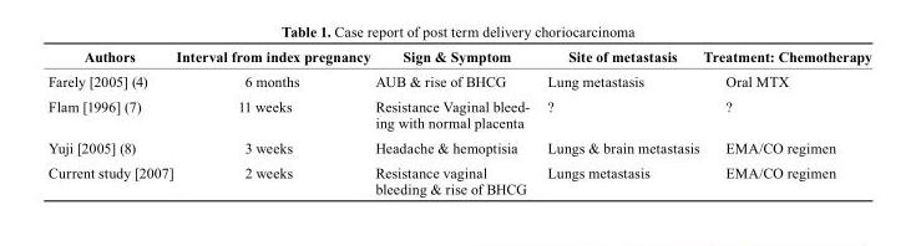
<table><thead><tr><td>Authors</td><td>Interval from index pregnancy</td><td>sign &amp; symptom</td><td>site of metastasis</td><td>treatment: chemotherapy</td></tr></thead><tbody><tr><td>Farely [2005] (4)</td><td>6 months</td><td>AUB &amp; rise of BHCG</td><td>Lung metastasis</td><td>Oral MTX</td></tr><tr><td>Flam [1996] (7)</td><td>11 weeks</td><td>Resistance Vaginal bleed- ing with normal placenta</td><td>?</td><td>?</td></tr><tr><td>Yuji [2005] (8)</td><td>3 weeks</td><td>Headache &amp; hemoptisia</td><td>Lungs &amp; brain metastasis</td><td>EMA/CO regimen</td></tr><tr><td>Current study [2007]</td><td>2 weeks</td><td>Resistance vaginal bleeding &amp; rise of BHCG</td><td>Lungs metastasis</td><td>EMA/CO regimen</td></tr></tbody></table>